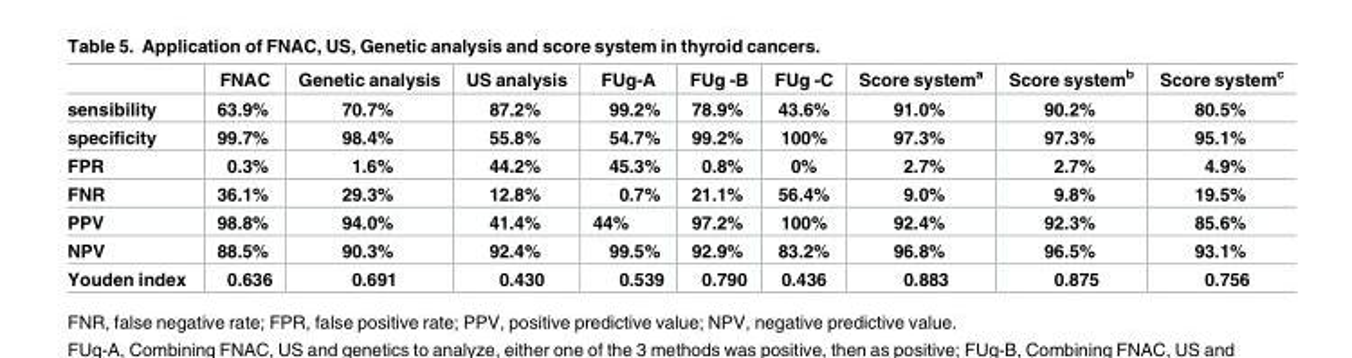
<table><thead><tr><td></td><td>FNAC</td><td>Genetic analysis</td><td>US analysis</td><td>FUg-A</td><td>FUg -B</td><td>FUg -C</td><td>Score system<sup>a</sup></td><td>Score system<sup>b</sup></td><td>Score system<sup>c</sup></td></tr></thead><tbody><tr><td>sensibility</td><td>63.9%</td><td>70.7%</td><td>87.2%</td><td>99.2%</td><td>78.9%</td><td>43.6%</td><td>91.0%</td><td>90.2%</td><td>80.5%</td></tr><tr><td>specificity</td><td>99.7%</td><td>98.4%</td><td>55.8%</td><td>54.7%</td><td>99.2%</td><td>100%</td><td>97.3%</td><td>97.3%</td><td>95.1%</td></tr><tr><td>FPR</td><td>0.3%</td><td>1.6%</td><td>44.2%</td><td>45.3%</td><td>0.8%</td><td>0%</td><td>2.7%</td><td>2.7%</td><td>4.9%</td></tr><tr><td>FNR</td><td>36.1%</td><td>29.3%</td><td>12.8%</td><td>0.7%</td><td>21.1%</td><td>56.4%</td><td>9.0%</td><td>9.8%</td><td>19.5%</td></tr><tr><td>PPV</td><td>98.8%</td><td>94.0%</td><td>41.4%</td><td>44%</td><td>97.2%</td><td>100%</td><td>92.4%</td><td>92.3%</td><td>85.6%</td></tr><tr><td>NPV</td><td>88.5%</td><td>90.3%</td><td>92.4%</td><td>99.5%</td><td>92.9%</td><td>83.2%</td><td>96.8%</td><td>96.5%</td><td>93.1%</td></tr><tr><td>Youden index</td><td>0.636</td><td>0.691</td><td>0.430</td><td>0.539</td><td>0.790</td><td>0.436</td><td>0.883</td><td>0.875</td><td>0.756</td></tr></tbody></table>